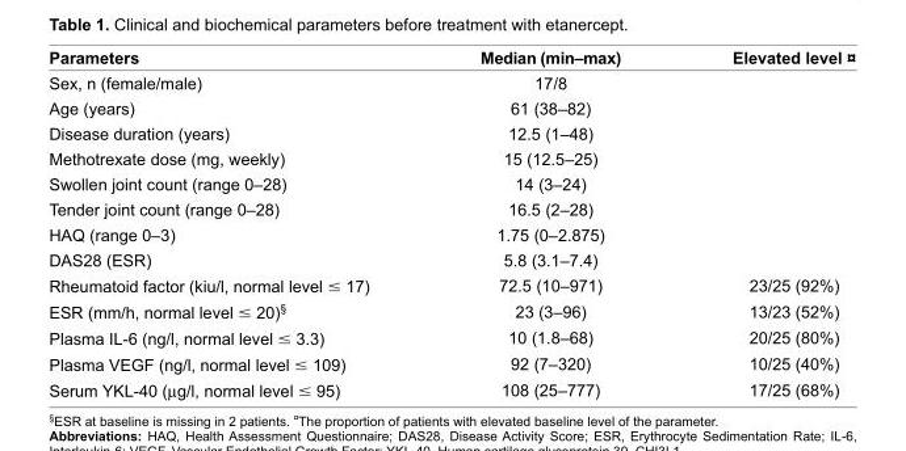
<table><thead><tr><td>Parameters</td><td>Median (min–max)</td><td>Elevated level ¤</td></tr></thead><tbody><tr><td>Sex, n (female/male)</td><td>17/8</td><td></td></tr><tr><td>Age (years)</td><td>61 (38–82)</td><td></td></tr><tr><td>Disease duration (years)</td><td>12.5 (1–48)</td><td></td></tr><tr><td>Methotrexate dose (mg, weekly)</td><td>15 (12.5–25)</td><td></td></tr><tr><td>Swollen joint count (range 0–28)</td><td>14 (3–24)</td><td></td></tr><tr><td>Tender joint count (range 0–28)</td><td>16.5 (2–28)</td><td></td></tr><tr><td>HAQ (range 0–3)</td><td>1.75 (0–2.875)</td><td></td></tr><tr><td>DAS28 (ESR)</td><td>5.8 (3.1–7.4)</td><td></td></tr><tr><td>Rheumatoid factor (kiu/l, normal level ≤ 17)</td><td>72.5 (10–971)</td><td>23/25 (92%)</td></tr><tr><td>ESR (mm/h, normal level ≤ 20)§</td><td>23 (3–96)</td><td>13/23 (52%)</td></tr><tr><td>Plasma IL-6 (ng/l, normal level ≤ 3.3)</td><td>10 (1.8–68)</td><td>20/25 (80%)</td></tr><tr><td>Plasma VEGF (ng/l, normal level ≤ 109)</td><td>92 (7–320)</td><td>10/25 (40%)</td></tr><tr><td>Serum YKL-40 (μg/l, normal level ≤ 95)</td><td>108 (25–777)</td><td>17/25 (68%)</td></tr></tbody></table>